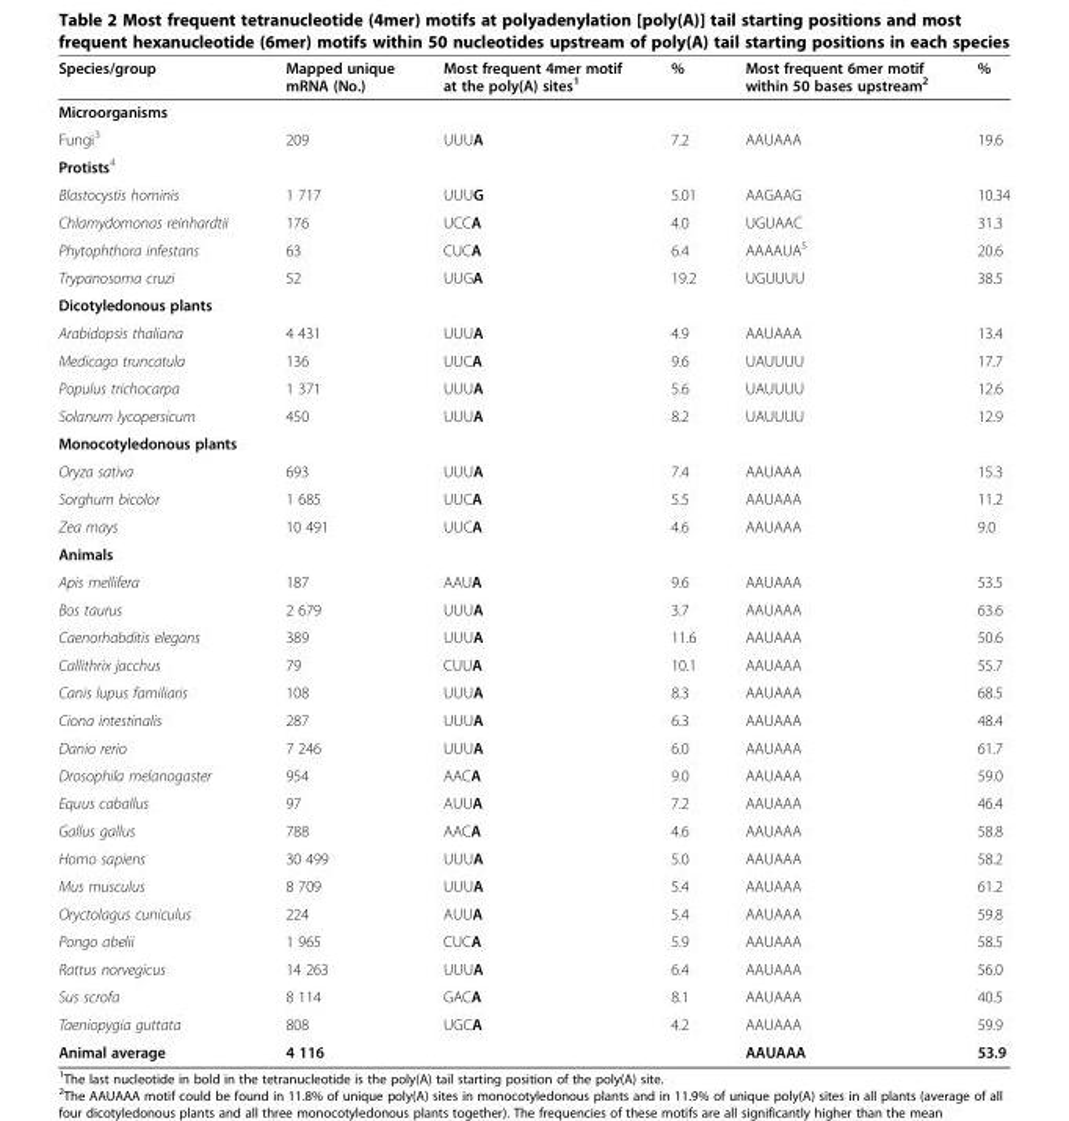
<table><thead><tr><td>Species/group</td><td>Mapped unique mRNA (No.)</td><td>Most frequent 4mer motif at the poly(A) sites<sup>1</sup></td><td>%</td><td>Most frequent 6mer motif within 50 bases upstream<sup>2</sup></td><td>%</td></tr></thead><tbody><tr><td colspan="6">Microorganisms</td></tr><tr><td>Fungi<sup>3</sup></td><td>209</td><td>UUUA</td><td>7.2</td><td>AAUAAA</td><td>19.6</td></tr><tr><td colspan="6">Protists<sup>4</sup></td></tr><tr><td>Blastocystis hominis</td><td>1 717</td><td>UUUG</td><td>5.01</td><td>AAGAAG</td><td>10.34</td></tr><tr><td>Chlamydomonas reinhardtii</td><td>176</td><td>UCCA</td><td>4.0</td><td>UGUAAC</td><td>31.3</td></tr><tr><td>Phytophthora infestans</td><td>63</td><td>CUCA</td><td>6.4</td><td>AAAAUA<sup>5</sup></td><td>20.6</td></tr><tr><td>Trypanosoma cruzi</td><td>52</td><td>UUGA</td><td>19.2</td><td>UGUUUU</td><td>38.5</td></tr><tr><td colspan="6">Dicotyledonous plants</td></tr><tr><td>Arabidopsis thaliana</td><td>4 431</td><td>UUUA</td><td>4.9</td><td>AAUAAA</td><td>13.4</td></tr><tr><td>Medicago truncatula</td><td>136</td><td>UUCA</td><td>9.6</td><td>UAUUUU</td><td>17.7</td></tr><tr><td>Populus trichocarpa</td><td>1 371</td><td>UUUA</td><td>5.6</td><td>UAUUUU</td><td>12.6</td></tr><tr><td>Solanum lycopersicum</td><td>450</td><td>UUUA</td><td>8.2</td><td>UAUUUU</td><td>12.9</td></tr><tr><td colspan="6">Monocotyledonous plants</td></tr><tr><td>Oryza sativa</td><td>693</td><td>UUUA</td><td>7.4</td><td>AAUAAA</td><td>15.3</td></tr><tr><td>Sorghum bicolor</td><td>1 685</td><td>UUCA</td><td>5.5</td><td>AAUAAA</td><td>11.2</td></tr><tr><td>Zea mays</td><td>10 491</td><td>UUCA</td><td>4.6</td><td>AAUAAA</td><td>9.0</td></tr><tr><td colspan="6">Animals</td></tr><tr><td>Apis mellifera</td><td>187</td><td>AAUA</td><td>9.6</td><td>AAUAAA</td><td>53.5</td></tr><tr><td>Bos taurus</td><td>2 679</td><td>UUUA</td><td>3.7</td><td>AAUAAA</td><td>63.6</td></tr><tr><td>Caenorhabditis elegans</td><td>389</td><td>UUUA</td><td>11.6</td><td>AAUAAA</td><td>50.6</td></tr><tr><td>Callithrix jacchus</td><td>79</td><td>CUUA</td><td>10.1</td><td>AAUAAA</td><td>55.7</td></tr><tr><td>Canis lupus familiaris</td><td>108</td><td>UUUA</td><td>8.3</td><td>AAUAAA</td><td>68.5</td></tr><tr><td>Ciona intestinalis</td><td>287</td><td>UUUA</td><td>6.3</td><td>AAUAAA</td><td>48.4</td></tr><tr><td>Danio rerio</td><td>7 246</td><td>UUUA</td><td>6.0</td><td>AAUAAA</td><td>61.7</td></tr><tr><td>Drosophila melanogaster</td><td>954</td><td>AACA</td><td>9.0</td><td>AAUAAA</td><td>59.0</td></tr><tr><td>Equus caballus</td><td>97</td><td>AUUA</td><td>7.2</td><td>AAUAAA</td><td>46.4</td></tr><tr><td>Gallus gallus</td><td>788</td><td>AACA</td><td>4.6</td><td>AAUAAA</td><td>58.8</td></tr><tr><td>Homo sapiens</td><td>30 499</td><td>UUUA</td><td>5.0</td><td>AAUAAA</td><td>58.2</td></tr><tr><td>Mus musculus</td><td>8 709</td><td>UUUA</td><td>5.4</td><td>AAUAAA</td><td>61.2</td></tr><tr><td>Oryctolagus cuniculus</td><td>224</td><td>AUUA</td><td>5.4</td><td>AAUAAA</td><td>59.8</td></tr><tr><td>Pongo abelii</td><td>1 965</td><td>CUCA</td><td>5.9</td><td>AAUAAA</td><td>58.5</td></tr><tr><td>Rattus norvegicus</td><td>14 263</td><td>UUUA</td><td>6.4</td><td>AAUAAA</td><td>56.0</td></tr><tr><td>Sus scrofa</td><td>8 114</td><td>GACA</td><td>8.1</td><td>AAUAAA</td><td>40.5</td></tr><tr><td>Taeniopygia guttata</td><td>808</td><td>UGCA</td><td>4.2</td><td>AAUAAA</td><td>59.9</td></tr><tr><td>Animal average</td><td>4 116</td><td></td><td></td><td>AAUAAA</td><td>53.9</td></tr></tbody></table>